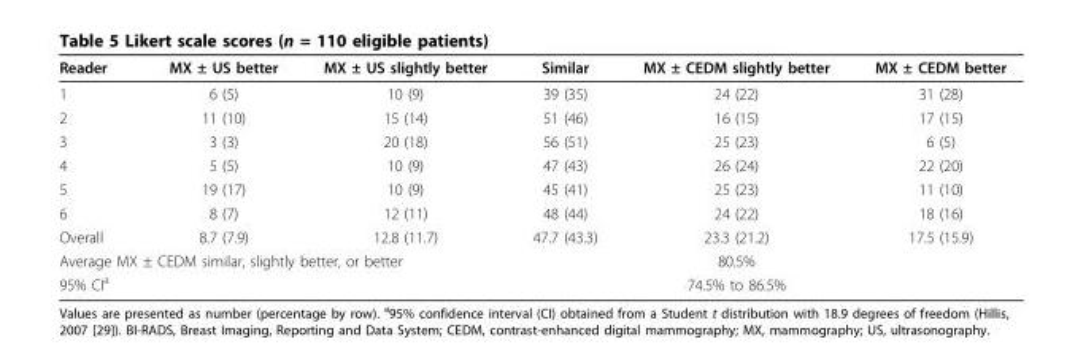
<table><thead><tr><td>Reader</td><td>MX ± US better</td><td>MX ± US slightly better</td><td>Similar</td><td>MX ± CEDM slightly better</td><td>MX ± CEDM better</td></tr></thead><tbody><tr><td>1</td><td>6 (5)</td><td>10 (9)</td><td>39 (35)</td><td>24 (22)</td><td>31 (28)</td></tr><tr><td>2</td><td>11 (10)</td><td>15 (14)</td><td>51 (46)</td><td>16 (15)</td><td>17 (15)</td></tr><tr><td>3</td><td>3 (3)</td><td>20 (18)</td><td>56 (51)</td><td>25 (23)</td><td>6 (5)</td></tr><tr><td>4</td><td>5 (5)</td><td>10 (9)</td><td>47 (43)</td><td>26 (24)</td><td>22 (20)</td></tr><tr><td>5</td><td>19 (17)</td><td>10 (9)</td><td>45 (41)</td><td>25 (23)</td><td>11 (10)</td></tr><tr><td>6</td><td>8 (7)</td><td>12 (11)</td><td>48 (44)</td><td>24 (22)</td><td>18 (16)</td></tr><tr><td>Overall</td><td>8.7 (7.9)</td><td>12.8 (11.7)</td><td>47.7 (43.3)</td><td>23.3 (21.2)</td><td>17.5 (15.9)</td></tr><tr><td colspan="3">Average MX ± CEDM similar, slightly better, or better</td><td></td><td>80.5%</td><td></td></tr><tr><td colspan="3">95% CI<sup>a</sup></td><td></td><td>74.5% to 86.5%</td><td></td></tr></tbody></table>